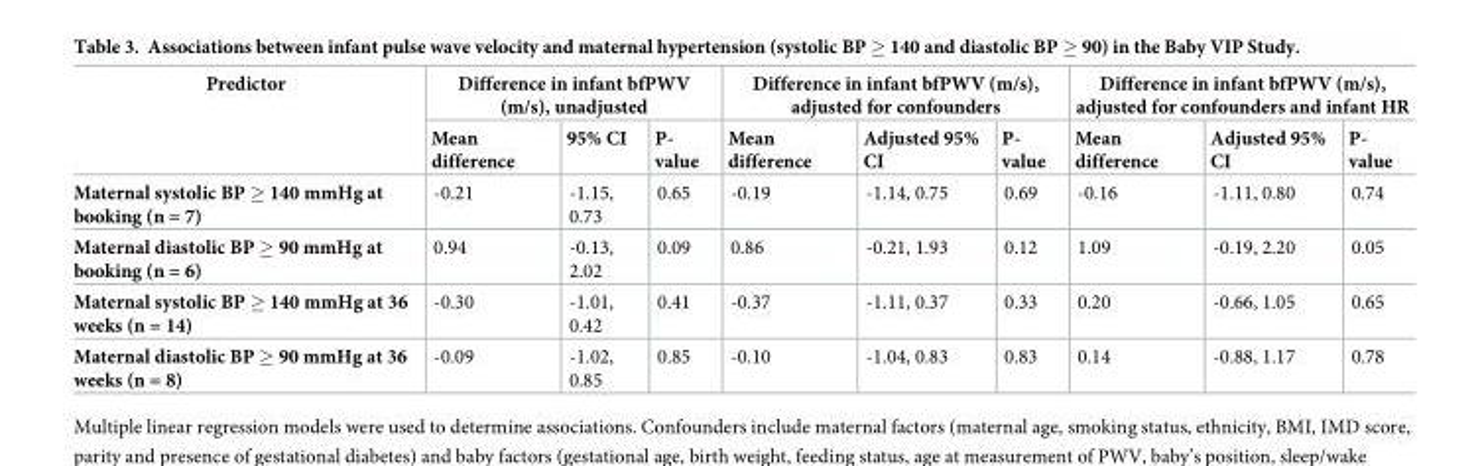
<table><thead><tr><td rowspan="2">Predictor</td><td colspan="3">Difference in infant bfPWV (m/s), unadjusted</td><td colspan="3">Difference in infant bfPWV (m/s), adjusted for confounders</td><td colspan="3">Difference in infant bfPWV (m/s), adjusted for confounders and infant HR</td></tr><tr><td>Mean difference</td><td>95% CI</td><td>P- value</td><td>Mean difference</td><td>Adjusted 95% CI</td><td>P- value</td><td>Mean difference</td><td>Adjusted 95% CI</td><td>P- value</td></tr></thead><tbody><tr><td>Maternal systolic BP ≥ 140 mmHg at booking (n = 7)</td><td>-0.21</td><td>-1.15, 0.73</td><td>0.65</td><td>-0.19</td><td>-1.14, 0.75</td><td>0.69</td><td>-0.16</td><td>-1.11, 0.80</td><td>0.74</td></tr><tr><td>Maternal diastolic BP ≥ 90 mmHg at booking (n = 6)</td><td>0.94</td><td>-0.13, 2.02</td><td>0.09</td><td>0.86</td><td>-0.21, 1.93</td><td>0.12</td><td>1.09</td><td>-0.19, 2.20</td><td>0.05</td></tr><tr><td>Maternal systolic BP ≥ 140 mmHg at 36 weeks (n = 14)</td><td>-0.30</td><td>-1.01, 0.42</td><td>0.41</td><td>-0.37</td><td>-1.11, 0.37</td><td>0.33</td><td>0.20</td><td>-0.66, 1.05</td><td>0.65</td></tr><tr><td>Maternal diastolic BP ≥ 90 mmHg at 36 weeks (n = 8)</td><td>-0.09</td><td>-1.02, 0.85</td><td>0.85</td><td>-0.10</td><td>-1.04, 0.83</td><td>0.83</td><td>0.14</td><td>-0.88, 1.17</td><td>0.78</td></tr></tbody></table>